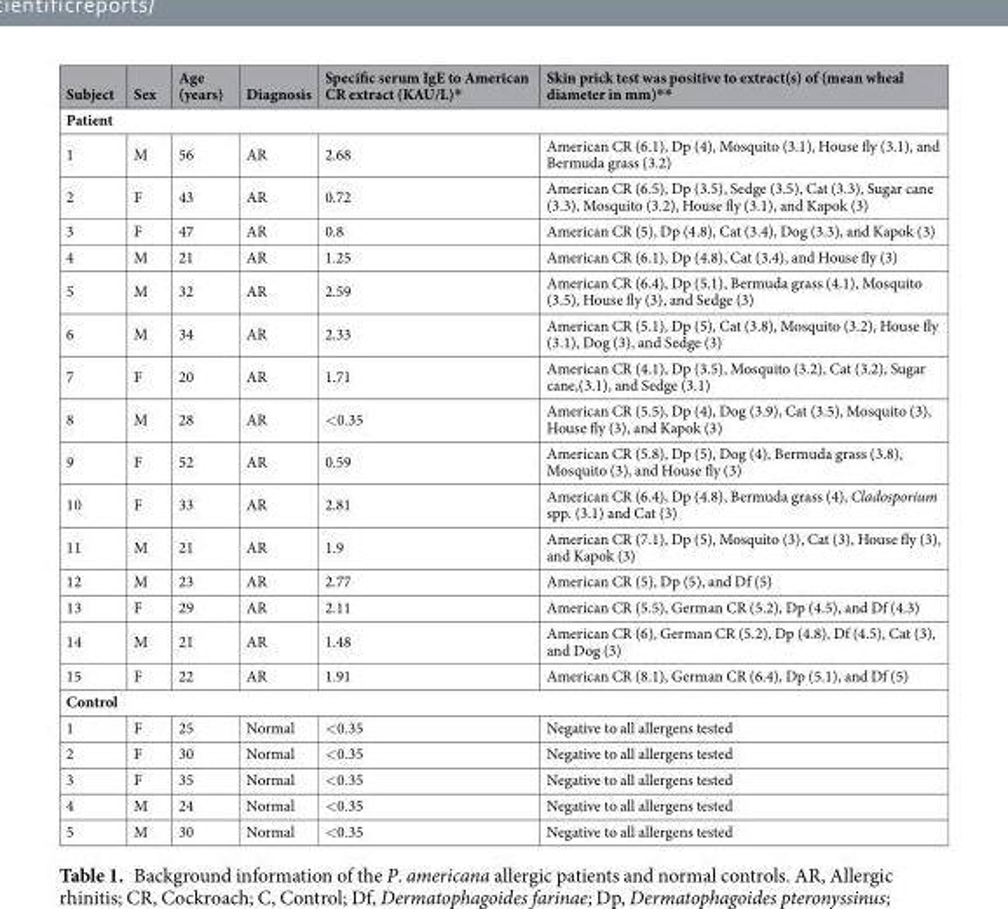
<table><thead><tr><td>Subject</td><td>Sex</td><td>Age (years)</td><td>Diagnosis</td><td>Specific serum IgE to American CR extract (KAU/L)*</td><td>Skin prick test was positive to extract(s) of (mean wheal diameter in mm)**</td></tr></thead><tbody><tr><td colspan="6">Patient</td></tr><tr><td>1</td><td>M</td><td>56</td><td>AR</td><td>2.68</td><td>American CR (6.1), Dp (4), Mosquito (3.1), House fly (3.1), and Bermuda grass (3.2)</td></tr><tr><td>2</td><td>F</td><td>43</td><td>AR</td><td>0.72</td><td>American CR (6.5), Dp (3.5), Sedge (3.5), Cat (3.3), Sugar cane (3.3), Mosquito (3.2), House fly (3.1), and Kapok (3)</td></tr><tr><td>3</td><td>F</td><td>47</td><td>AR</td><td>0.8</td><td>American CR (5), Dp (4.8), Cat (3.4), Dog (3.3), and Kapok (3)</td></tr><tr><td>4</td><td>M</td><td>21</td><td>AR</td><td>1.25</td><td>American CR (6.1), Dp (4.8), Cat (3.4), and House fly (3)</td></tr><tr><td>5</td><td>M</td><td>32</td><td>AR</td><td>2.59</td><td>American CR (6.4), Dp (5.1), Bermuda grass (4.1), Mosquito (3.5), House fly (3), and Sedge (3)</td></tr><tr><td>6</td><td>M</td><td>34</td><td>AR</td><td>2.33</td><td>American CR (5.1), Dp (5), Cat (3.8), Mosquito (3.2), House fly (3.1), Dog (3), and Sedge (3)</td></tr><tr><td>7</td><td>F</td><td>20</td><td>AR</td><td>1.71</td><td>American CR (4.1), Dp (3.5), Mosquito (3.2), Cat (3.2), Sugar cane,(3.1), and Sedge (3.1)</td></tr><tr><td>8</td><td>M</td><td>28</td><td>AR</td><td>&lt;0.35</td><td>American CR (5.5), Dp (4), Dog (3.9), Cat (3.5), Mosquito (3), House fly (3), and Kapok (3)</td></tr><tr><td>9</td><td>F</td><td>52</td><td>AR</td><td>0.59</td><td>American CR (5.8), Dp (5), Dog (4), Bermuda grass (3.8), Mosquito (3), and House fly (3)</td></tr><tr><td>10</td><td>F</td><td>33</td><td>AR</td><td>2.81</td><td>American CR (6.4), Dp (4.8), Bermuda grass (4), Cladosporium spp. (3.1) and Cat (3)</td></tr><tr><td>11</td><td>M</td><td>21</td><td>AR</td><td>1.9</td><td>American CR (7.1), Dp (5), Mosquito (3), Cat (3), House fly (3), and Kapok (3)</td></tr><tr><td>12</td><td>M</td><td>23</td><td>AR</td><td>2.77</td><td>American CR (5), Dp (5), and Df (5)</td></tr><tr><td>13</td><td>F</td><td>29</td><td>AR</td><td>2.11</td><td>American CR (5.5), German CR (5.2), Dp (4.5), and Df (4.3)</td></tr><tr><td>14</td><td>M</td><td>21</td><td>AR</td><td>1.48</td><td>American CR (6), German CR (5.2), Dp (4.8), Df (4.5), Cat (3), and Dog (3)</td></tr><tr><td>15</td><td>F</td><td>22</td><td>AR</td><td>1.91</td><td>American CR (8.1), German CR (6.4), Dp (5.1), and Df (5)</td></tr><tr><td colspan="6">Control</td></tr><tr><td>1</td><td>F</td><td>25</td><td>Normal</td><td>&lt;0.35</td><td>Negative to all allergens tested</td></tr><tr><td>2</td><td>F</td><td>30</td><td>Normal</td><td>&lt;0.35</td><td>Negative to all allergens tested</td></tr><tr><td>3</td><td>F</td><td>35</td><td>Normal</td><td>&lt;0.35</td><td>Negative to all allergens tested</td></tr><tr><td>4</td><td>M</td><td>24</td><td>Normal</td><td>&lt;0.35</td><td>Negative to all allergens tested</td></tr><tr><td>5</td><td>M</td><td>30</td><td>Normal</td><td>&lt;0.35</td><td>Negative to all allergens tested</td></tr></tbody></table>